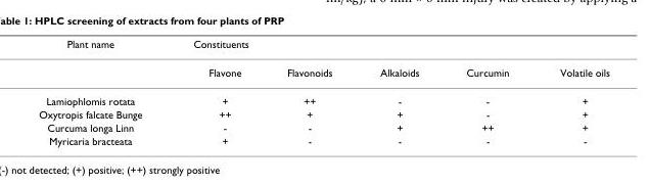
<table><thead><tr><td rowspan="2">Plant name</td><td colspan="5">Constituents</td></tr><tr><td>Flavone</td><td>Flavonoids</td><td>Alkaloids</td><td>Curcumin</td><td>Volatile oils</td></tr></thead><tbody><tr><td>Lamiophlomis rotata</td><td>+</td><td>++</td><td>-</td><td>-</td><td>+</td></tr><tr><td>Oxytropis falcate Bunge</td><td>++</td><td>+</td><td>+</td><td>-</td><td>+</td></tr><tr><td>Curcuma longa Linn</td><td>-</td><td>-</td><td>+</td><td>++</td><td>+</td></tr><tr><td>Myricaria bracteata</td><td>+</td><td>-</td><td>-</td><td>-</td><td>-</td></tr></tbody></table>